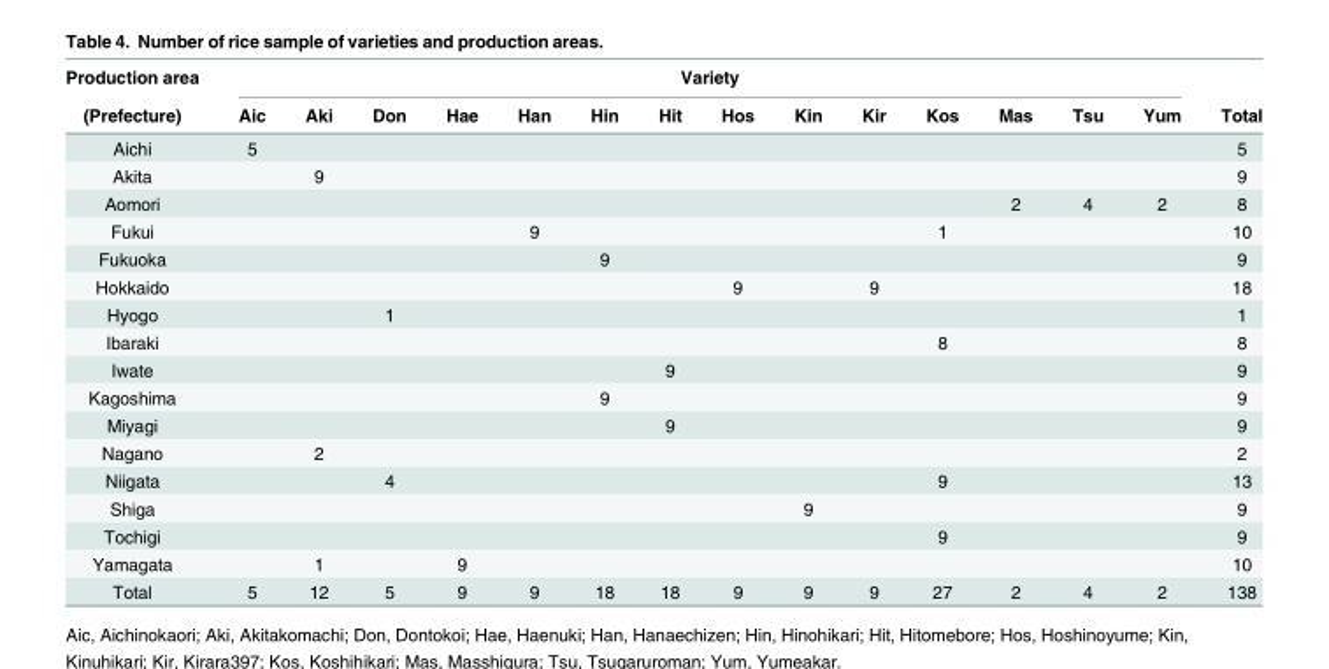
<table><thead><tr><td rowspan="2">Production area (Prefecture)</td><td colspan="14">Variety</td><td rowspan="2">Total</td></tr><tr><td>Aic</td><td>Aki</td><td>Don</td><td>Hae</td><td>Han</td><td>Hin</td><td>Hit</td><td>Hos</td><td>Kin</td><td>Kir</td><td>Kos</td><td>Mas</td><td>Tsu</td><td>Yum</td></tr></thead><tbody><tr><td>Aichi</td><td>5</td><td></td><td></td><td></td><td></td><td></td><td></td><td></td><td></td><td></td><td></td><td></td><td></td><td></td><td>5</td></tr><tr><td>Akita</td><td></td><td>9</td><td></td><td></td><td></td><td></td><td></td><td></td><td></td><td></td><td></td><td></td><td></td><td></td><td>9</td></tr><tr><td>Aomori</td><td></td><td></td><td></td><td></td><td></td><td></td><td></td><td></td><td></td><td></td><td></td><td>2</td><td>4</td><td>2</td><td>8</td></tr><tr><td>Fukui</td><td></td><td></td><td></td><td></td><td>9</td><td></td><td></td><td></td><td></td><td></td><td>1</td><td></td><td></td><td></td><td>10</td></tr><tr><td>Fukuoka</td><td></td><td></td><td></td><td></td><td></td><td>9</td><td></td><td></td><td></td><td></td><td></td><td></td><td></td><td></td><td>9</td></tr><tr><td>Hokkaido</td><td></td><td></td><td></td><td></td><td></td><td></td><td></td><td>9</td><td></td><td>9</td><td></td><td></td><td></td><td></td><td>18</td></tr><tr><td>Hyogo</td><td></td><td></td><td>1</td><td></td><td></td><td></td><td></td><td></td><td></td><td></td><td></td><td></td><td></td><td></td><td>1</td></tr><tr><td>Ibaraki</td><td></td><td></td><td></td><td></td><td></td><td></td><td></td><td></td><td></td><td></td><td>8</td><td></td><td></td><td></td><td>8</td></tr><tr><td>Iwate</td><td></td><td></td><td></td><td></td><td></td><td></td><td>9</td><td></td><td></td><td></td><td></td><td></td><td></td><td></td><td>9</td></tr><tr><td>Kagoshima</td><td></td><td></td><td></td><td></td><td></td><td>9</td><td></td><td></td><td></td><td></td><td></td><td></td><td></td><td></td><td>9</td></tr><tr><td>Miyagi</td><td></td><td></td><td></td><td></td><td></td><td></td><td>9</td><td></td><td></td><td></td><td></td><td></td><td></td><td></td><td>9</td></tr><tr><td>Nagano</td><td></td><td>2</td><td></td><td></td><td></td><td></td><td></td><td></td><td></td><td></td><td></td><td></td><td></td><td></td><td>2</td></tr><tr><td>Niigata</td><td></td><td></td><td>4</td><td></td><td></td><td></td><td></td><td></td><td></td><td></td><td>9</td><td></td><td></td><td></td><td>13</td></tr><tr><td>Shiga</td><td></td><td></td><td></td><td></td><td></td><td></td><td></td><td></td><td>9</td><td></td><td></td><td></td><td></td><td></td><td>9</td></tr><tr><td>Tochigi</td><td></td><td></td><td></td><td></td><td></td><td></td><td></td><td></td><td></td><td></td><td>9</td><td></td><td></td><td></td><td>9</td></tr><tr><td>Yamagata</td><td></td><td>1</td><td></td><td>9</td><td></td><td></td><td></td><td></td><td></td><td></td><td></td><td></td><td></td><td></td><td>10</td></tr><tr><td>Total</td><td>5</td><td>12</td><td>5</td><td>9</td><td>9</td><td>18</td><td>18</td><td>9</td><td>9</td><td>9</td><td>27</td><td>2</td><td>4</td><td>2</td><td>138</td></tr></tbody></table>